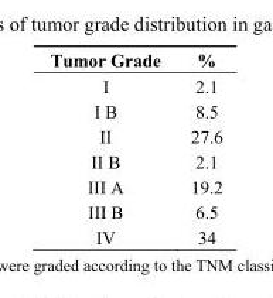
<table><thead><tr><td>Tumor Grade</td><td>%</td></tr></thead><tbody><tr><td>I</td><td>2.1</td></tr><tr><td>I B</td><td>8.5</td></tr><tr><td>II</td><td>27.6</td></tr><tr><td>II B</td><td>2.1</td></tr><tr><td>III A</td><td>19.2</td></tr><tr><td>III B</td><td>6.5</td></tr><tr><td>IV</td><td>34</td></tr></tbody></table>